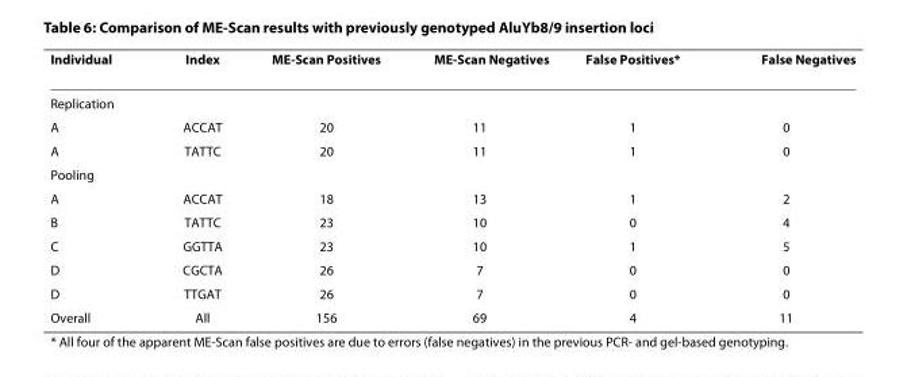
<table><thead><tr><td>Individual</td><td>Index</td><td>ME-Scan Positives</td><td>ME-Scan Negatives</td><td>False Positives*</td><td>False Negatives</td></tr></thead><tbody><tr><td colspan="6">Replication</td></tr><tr><td>A</td><td>ACCAT</td><td>20</td><td>11</td><td>1</td><td>0</td></tr><tr><td>A</td><td>TATTC</td><td>20</td><td>11</td><td>1</td><td>0</td></tr><tr><td colspan="6">Pooling</td></tr><tr><td>A</td><td>ACCAT</td><td>18</td><td>13</td><td>1</td><td>2</td></tr><tr><td>B</td><td>TATTC</td><td>23</td><td>10</td><td>0</td><td>4</td></tr><tr><td>C</td><td>GGTTA</td><td>23</td><td>10</td><td>1</td><td>5</td></tr><tr><td>D</td><td>CGCTA</td><td>26</td><td>7</td><td>0</td><td>0</td></tr><tr><td>D</td><td>TTGAT</td><td>26</td><td>7</td><td>0</td><td>0</td></tr><tr><td>Overall</td><td>All</td><td>156</td><td>69</td><td>4</td><td>11</td></tr></tbody></table>